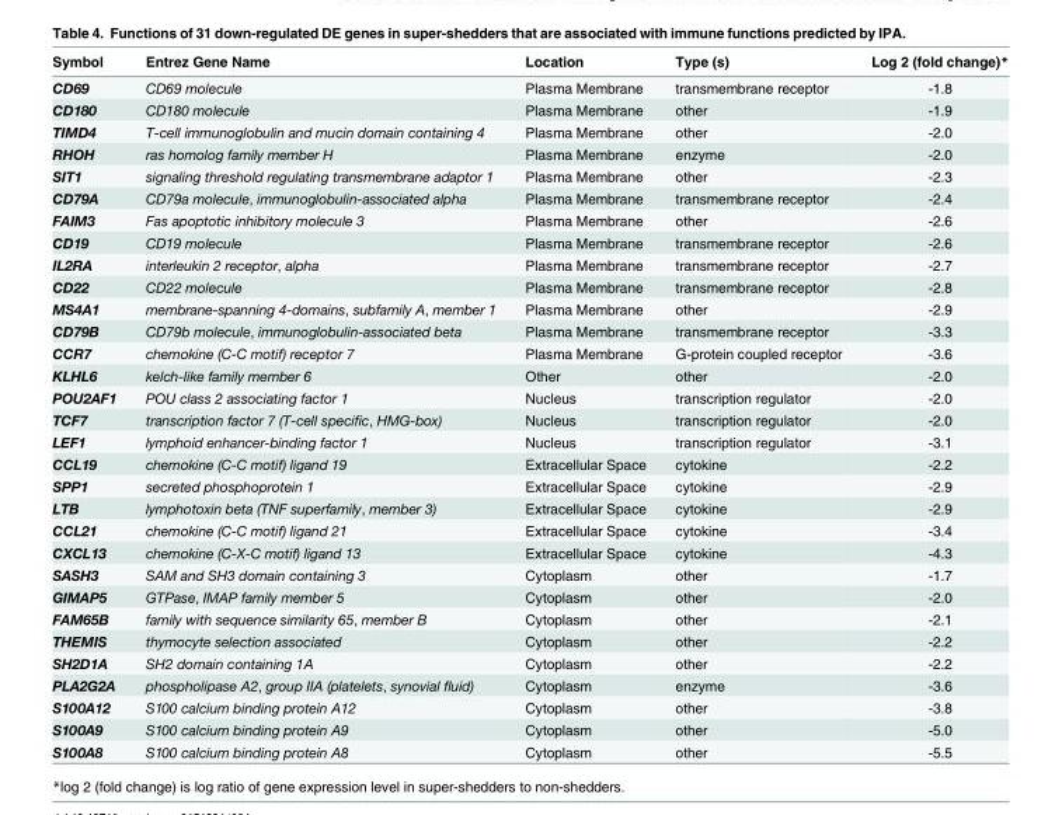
<table><thead><tr><td>Symbol</td><td>Entrez Gene Name</td><td>Location</td><td>Type (s)</td><td>Log 2 (fold change)*</td></tr></thead><tbody><tr><td>CD69</td><td>CD69 molecule</td><td>Plasma Membrane</td><td>transmembrane receptor</td><td>-1.8</td></tr><tr><td>CD180</td><td>CD180 molecule</td><td>Plasma Membrane</td><td>other</td><td>-1.9</td></tr><tr><td>TIMD4</td><td>T-cell immunoglobulin and mucin domain containing 4</td><td>Plasma Membrane</td><td>other</td><td>-2.0</td></tr><tr><td>RHOH</td><td>ras homolog family member H</td><td>Plasma Membrane</td><td>enzyme</td><td>-2.0</td></tr><tr><td>SIT1</td><td>signaling threshold regulating transmembrane adaptor 1</td><td>Plasma Membrane</td><td>other</td><td>-2.3</td></tr><tr><td>CD79A</td><td>CD79a molecule, immunoglobulin-associated alpha</td><td>Plasma Membrane</td><td>transmembrane receptor</td><td>-2.4</td></tr><tr><td>FAIM3</td><td>Fas apoptotic inhibitory molecule 3</td><td>Plasma Membrane</td><td>other</td><td>-2.6</td></tr><tr><td>CD19</td><td>CD19 molecule</td><td>Plasma Membrane</td><td>transmembrane receptor</td><td>-2.6</td></tr><tr><td>IL2RA</td><td>interleukin 2 receptor, alpha</td><td>Plasma Membrane</td><td>transmembrane receptor</td><td>-2.7</td></tr><tr><td>CD22</td><td>CD22 molecule</td><td>Plasma Membrane</td><td>transmembrane receptor</td><td>-2.8</td></tr><tr><td>MS4A1</td><td>membrane-spanning 4-domains, subfamily A, member 1</td><td>Plasma Membrane</td><td>other</td><td>-2.9</td></tr><tr><td>CD79B</td><td>CD79b molecule, immunoglobulin-associated beta</td><td>Plasma Membrane</td><td>transmembrane receptor</td><td>-3.3</td></tr><tr><td>CCR7</td><td>chemokine (C-C motif) receptor 7</td><td>Plasma Membrane</td><td>G-protein coupled receptor</td><td>-3.6</td></tr><tr><td>KLHL6</td><td>kelch-like family member 6</td><td>Other</td><td>other</td><td>-2.0</td></tr><tr><td>POU2AF1</td><td>POU class 2 associating factor 1</td><td>Nucleus</td><td>transcription regulator</td><td>-2.0</td></tr><tr><td>TCF7</td><td>transcription factor 7 (T-cell specific, HMG-box)</td><td>Nucleus</td><td>transcription regulator</td><td>-2.0</td></tr><tr><td>LEF1</td><td>lymphoid enhancer-binding factor 1</td><td>Nucleus</td><td>transcription regulator</td><td>-3.1</td></tr><tr><td>CCL19</td><td>chemokine (C-C motif) ligand 19</td><td>Extracellular Space</td><td>cytokine</td><td>-2.2</td></tr><tr><td>SPP1</td><td>secreted phosphoprotein 1</td><td>Extracellular Space</td><td>cytokine</td><td>-2.9</td></tr><tr><td>LTB</td><td>lymphotoxin beta (TNF superfamily, member 3)</td><td>Extracellular Space</td><td>cytokine</td><td>-2.9</td></tr><tr><td>CCL21</td><td>chemokine (C-C motif) ligand 21</td><td>Extracellular Space</td><td>cytokine</td><td>-3.4</td></tr><tr><td>CXCL13</td><td>chemokine (C-X-C motif) ligand 13</td><td>Extracellular Space</td><td>cytokine</td><td>-4.3</td></tr><tr><td>SASH3</td><td>SAM and SH3 domain containing 3</td><td>Cytoplasm</td><td>other</td><td>-1.7</td></tr><tr><td>GIMAP5</td><td>GTPase, IMAP family member 5</td><td>Cytoplasm</td><td>other</td><td>-2.0</td></tr><tr><td>FAM65B</td><td>family with sequence similarity 65, member B</td><td>Cytoplasm</td><td>other</td><td>-2.1</td></tr><tr><td>THEMIS</td><td>thymocyte selection associated</td><td>Cytoplasm</td><td>other</td><td>-2.2</td></tr><tr><td>SH2D1A</td><td>SH2 domain containing 1A</td><td>Cytoplasm</td><td>other</td><td>-2.2</td></tr><tr><td>PLA2G2A</td><td>phospholipase A2, group IIA (platelets, synovial fluid)</td><td>Cytoplasm</td><td>enzyme</td><td>-3.6</td></tr><tr><td>S100A12</td><td>S100 calcium binding protein A12</td><td>Cytoplasm</td><td>other</td><td>-3.8</td></tr><tr><td>S100A9</td><td>S100 calcium binding protein A9</td><td>Cytoplasm</td><td>other</td><td>-5.0</td></tr><tr><td>S100A8</td><td>S100 calcium binding protein A8</td><td>Cytoplasm</td><td>other</td><td>-5.5</td></tr></tbody></table>